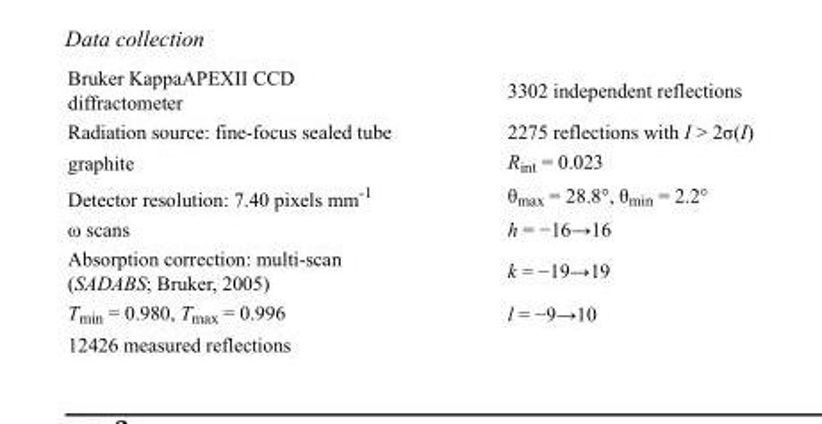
<table><tbody><tr><td>Bruker KappaAPEXII CCD diffractometer</td><td>3302 independent reflections</td></tr><tr><td>Radiation source: fine-focus sealed tube</td><td>2275 reflections with I &gt; 2σ(I)</td></tr><tr><td>graphite</td><td>R<sub>int</sub> = 0.023</td></tr><tr><td>Detector resolution: 7.40 pixels mm<sup>-1</sup></td><td>θ<sub>max</sub> = 28.8°, θ<sub>min</sub> = 2.2°</td></tr><tr><td>ω scans</td><td>h = −16→16</td></tr><tr><td>Absorption correction: multi-scan (SADABS; Bruker, 2005)</td><td>k = −19→19</td></tr><tr><td>T<sub>min</sub> = 0.980, T<sub>max</sub> = 0.996</td><td>l = −9→10</td></tr><tr><td>12426 measured reflections</td><td></td></tr></tbody></table>